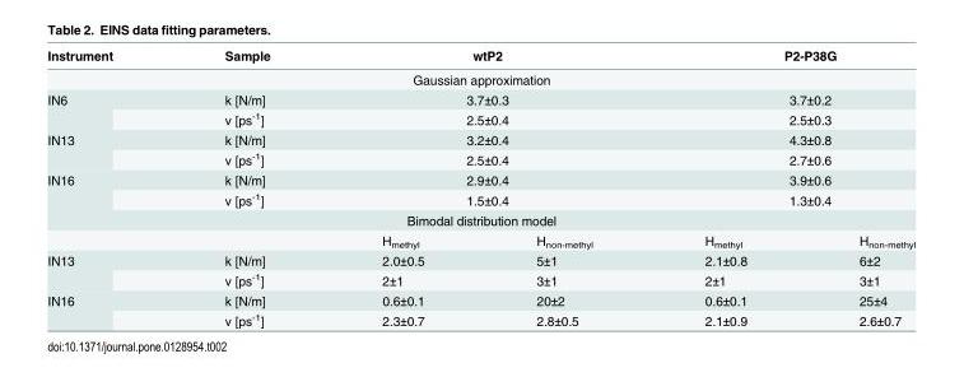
<table><thead><tr><td>Instrument</td><td>Sample</td><td colspan="2">wtP2</td><td colspan="2">P2-P38G</td></tr></thead><tbody><tr><td colspan="6">Gaussian approximation</td></tr><tr><td rowspan="2">IN6</td><td>k [N/m]</td><td colspan="2">3.7±0.3</td><td colspan="2">3.7±0.2</td></tr><tr><td>ν [ps<sup>-1</sup>]</td><td colspan="2">2.5±0.4</td><td colspan="2">2.5±0.3</td></tr><tr><td rowspan="2">IN13</td><td>k [N/m]</td><td colspan="2">3.2±0.4</td><td colspan="2">4.3±0.8</td></tr><tr><td>ν [ps<sup>-1</sup>]</td><td colspan="2">2.5±0.4</td><td colspan="2">2.7±0.6</td></tr><tr><td rowspan="2">IN16</td><td>k [N/m]</td><td colspan="2">2.9±0.4</td><td colspan="2">3.9±0.6</td></tr><tr><td>ν [ps<sup>-1</sup>]</td><td colspan="2">1.5±0.4</td><td colspan="2">1.3±0.4</td></tr><tr><td colspan="6">Bimodal distribution model</td></tr><tr><td></td><td></td><td>H<sub>methyl</sub></td><td>H<sub>non-methyl</sub></td><td>H<sub>methyl</sub></td><td>H<sub>non-methyl</sub></td></tr><tr><td rowspan="2">IN13</td><td>k [N/m]</td><td>2.0±0.5</td><td>5±1</td><td>2.1±0.8</td><td>6±2</td></tr><tr><td>ν [ps<sup>-1</sup>]</td><td>2±1</td><td>3±1</td><td>2±1</td><td>3±1</td></tr><tr><td rowspan="2">IN16</td><td>k [N/m]</td><td>0.6±0.1</td><td>20±2</td><td>0.6±0.1</td><td>25±4</td></tr><tr><td>ν [ps<sup>-1</sup>]</td><td>2.3±0.7</td><td>2.8±0.5</td><td>2.1±0.9</td><td>2.6±0.7</td></tr></tbody></table>